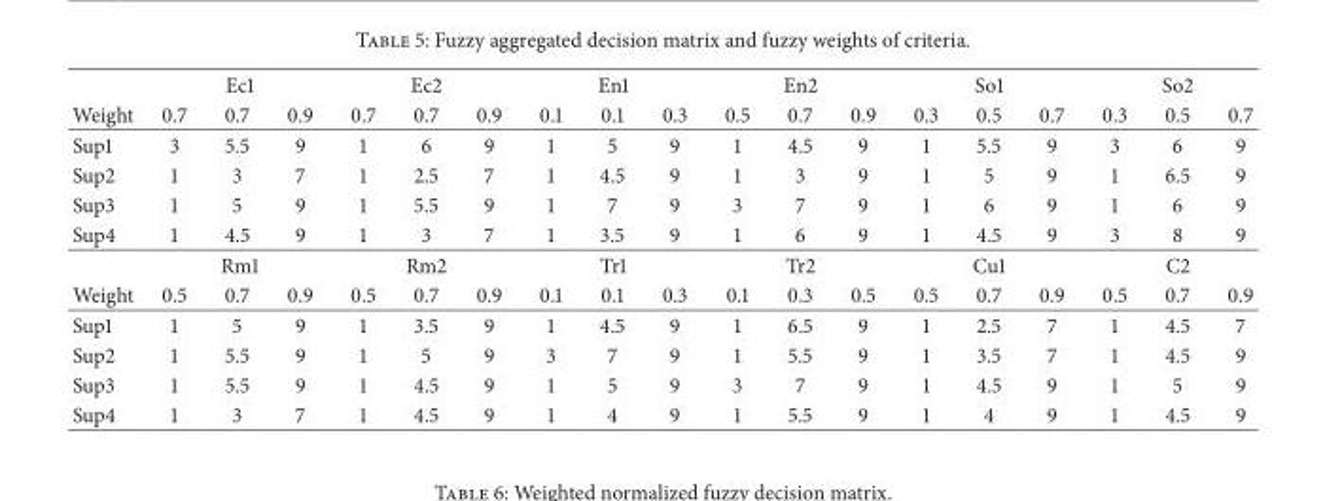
<table><thead><tr><td rowspan="2">Weight</td><td colspan="3">Ec1</td><td colspan="3">Ec2</td><td colspan="3">En1</td><td colspan="3">En2</td><td colspan="3">So1</td><td colspan="3">So2</td></tr><tr><td>0.7</td><td>0.7</td><td>0.9</td><td>0.7</td><td>0.7</td><td>0.9</td><td>0.1</td><td>0.1</td><td>0.3</td><td>0.5</td><td>0.7</td><td>0.9</td><td>0.3</td><td>0.5</td><td>0.7</td><td>0.3</td><td>0.5</td><td>0.7</td></tr></thead><tbody><tr><td>Sup1</td><td>3</td><td>5.5</td><td>9</td><td>1</td><td>6</td><td>9</td><td>1</td><td>5</td><td>9</td><td>1</td><td>4.5</td><td>9</td><td>1</td><td>5.5</td><td>9</td><td>3</td><td>6</td><td>9</td></tr><tr><td>Sup2</td><td>1</td><td>3</td><td>7</td><td>1</td><td>2.5</td><td>7</td><td>1</td><td>4.5</td><td>9</td><td>1</td><td>3</td><td>9</td><td>1</td><td>5</td><td>9</td><td>1</td><td>6.5</td><td>9</td></tr><tr><td>Sup3</td><td>1</td><td>5</td><td>9</td><td>1</td><td>5.5</td><td>9</td><td>1</td><td>7</td><td>9</td><td>3</td><td>7</td><td>9</td><td>1</td><td>6</td><td>9</td><td>1</td><td>6</td><td>9</td></tr><tr><td rowspan="2">Sup4</td><td>1</td><td>4.5</td><td>9</td><td>1</td><td>3</td><td>7</td><td>1</td><td>3.5</td><td>9</td><td>1</td><td>6</td><td>9</td><td>1</td><td>4.5</td><td>9</td><td>3</td><td>8</td><td>9</td></tr><tr><td colspan="3">Rm1</td><td colspan="3">Rm2</td><td colspan="3">Tr1</td><td colspan="3">Tr2</td><td colspan="3">Cu1</td><td colspan="3">C2</td></tr><tr><td>Weight</td><td>0.5</td><td>0.7</td><td>0.9</td><td>0.5</td><td>0.7</td><td>0.9</td><td>0.1</td><td>0.1</td><td>0.3</td><td>0.1</td><td>0.3</td><td>0.5</td><td>0.5</td><td>0.7</td><td>0.9</td><td>0.5</td><td>0.7</td><td>0.9</td></tr><tr><td>Sup1</td><td>1</td><td>5</td><td>9</td><td>1</td><td>3.5</td><td>9</td><td>1</td><td>4.5</td><td>9</td><td>1</td><td>6.5</td><td>9</td><td>1</td><td>2.5</td><td>7</td><td>1</td><td>4.5</td><td>7</td></tr><tr><td>Sup2</td><td>1</td><td>5.5</td><td>9</td><td>1</td><td>5</td><td>9</td><td>3</td><td>7</td><td>9</td><td>1</td><td>5.5</td><td>9</td><td>1</td><td>3.5</td><td>7</td><td>1</td><td>4.5</td><td>9</td></tr><tr><td>Sup3</td><td>1</td><td>5.5</td><td>9</td><td>1</td><td>4.5</td><td>9</td><td>1</td><td>5</td><td>9</td><td>3</td><td>7</td><td>9</td><td>1</td><td>4.5</td><td>9</td><td>1</td><td>5</td><td>9</td></tr><tr><td>Sup4</td><td>1</td><td>3</td><td>7</td><td>1</td><td>4.5</td><td>9</td><td>1</td><td>4</td><td>9</td><td>1</td><td>5.5</td><td>9</td><td>1</td><td>4</td><td>9</td><td>1</td><td>4.5</td><td>9</td></tr></tbody></table>